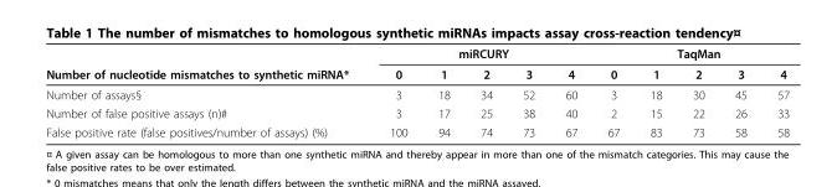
<table><thead><tr><td rowspan="2">Number of nucleotide mismatches to synthetic miRNA*</td><td colspan="5">miRCURY</td><td colspan="5">TaqMan</td></tr><tr><td>0</td><td>1</td><td>2</td><td>3</td><td>4</td><td>0</td><td>1</td><td>2</td><td>3</td><td>4</td></tr></thead><tbody><tr><td>Number of assays§</td><td>3</td><td>18</td><td>34</td><td>52</td><td>60</td><td>3</td><td>18</td><td>30</td><td>45</td><td>57</td></tr><tr><td>Number of false positive assays (n)#</td><td>3</td><td>17</td><td>25</td><td>38</td><td>40</td><td>2</td><td>15</td><td>22</td><td>26</td><td>33</td></tr><tr><td>False positive rate (false positives/number of assays) (%)</td><td>100</td><td>94</td><td>74</td><td>73</td><td>67</td><td>67</td><td>83</td><td>73</td><td>58</td><td>58</td></tr></tbody></table>